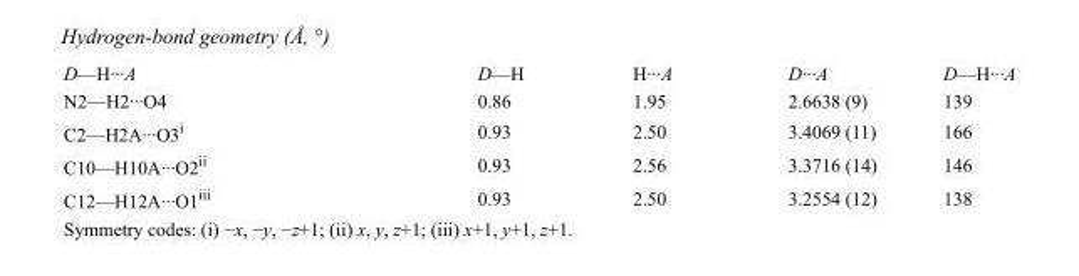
<table><tbody><tr><td>D—H···A</td><td>D—H</td><td>H···A</td><td>D···A</td><td>D—H···A</td></tr><tr><td>N2—H2···O4</td><td>0.86</td><td>1.95</td><td>2.6638 (9)</td><td>139</td></tr><tr><td>C2—H2A···O3<sup>i</sup></td><td>0.93</td><td>2.50</td><td>3.4069 (11)</td><td>166</td></tr><tr><td>C10—H10A···O2<sup>ii</sup></td><td>0.93</td><td>2.56</td><td>3.3716 (14)</td><td>146</td></tr><tr><td>C12—H12A···O1<sup>iii</sup></td><td>0.93</td><td>2.50</td><td>3.2554 (12)</td><td>138</td></tr></tbody></table>